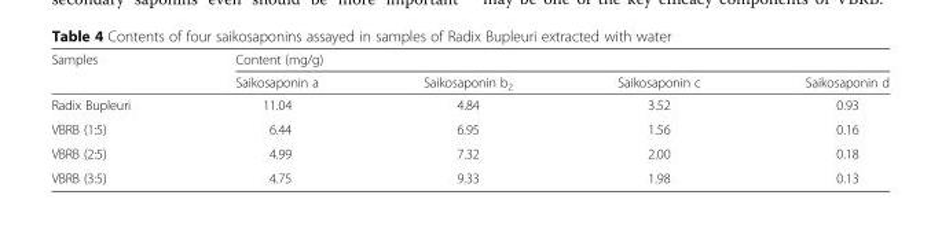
<table><thead><tr><td rowspan="2">Samples</td><td colspan="4">Content (mg/g)</td></tr><tr><td>Saikosaponin a</td><td>Saikosaponin b<sub>2</sub></td><td>Saikosaponin c</td><td>Saikosaponin d</td></tr></thead><tbody><tr><td>Radix Bupleuri</td><td>11.04</td><td>4.84</td><td>3.52</td><td>0.93</td></tr><tr><td>VBRB (1:5)</td><td>6.44</td><td>6.95</td><td>1.56</td><td>0.16</td></tr><tr><td>VBRB (2:5)</td><td>4.99</td><td>7.32</td><td>2.00</td><td>0.18</td></tr><tr><td>VBRB (3:5)</td><td>4.75</td><td>9.33</td><td>1.98</td><td>0.13</td></tr></tbody></table>